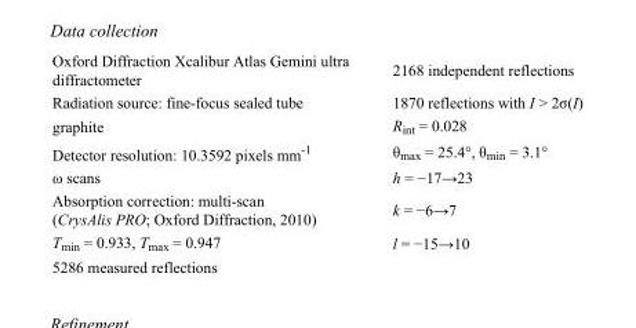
<table><tbody><tr><td>Oxford Diffraction Xcalibur Atlas Gemini ultra diffractometer</td><td>2168 independent reflections</td></tr><tr><td>Radiation source: fine-focus sealed tube</td><td>1870 reflections with I &gt; 2σ(I)</td></tr><tr><td>graphite</td><td>R<sub>int</sub> = 0.028</td></tr><tr><td>Detector resolution: 10.3592 pixels mm<sup>-1</sup></td><td>θ<sub>max</sub> = 25.4°, θ<sub>min</sub> = 3.1°</td></tr><tr><td>ω scans</td><td>h = −17→23</td></tr><tr><td>Absorption correction: multi-scan (CrysAlis PRO; Oxford Diffraction, 2010)</td><td>k = −6→7</td></tr><tr><td>T<sub>min</sub> = 0.933, T<sub>max</sub> = 0.947</td><td>l = −15→10</td></tr><tr><td>5286 measured reflections</td><td></td></tr></tbody></table>